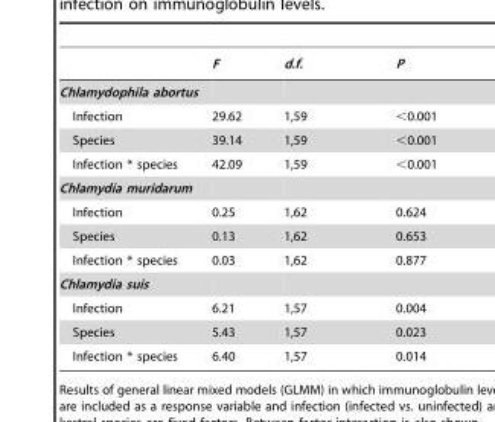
<table><thead><tr><td></td><td>F</td><td>d.f.</td><td>P</td></tr></thead><tbody><tr><td colspan="4">Chlamydophila abortus</td></tr><tr><td>Infection</td><td>29.62</td><td>1,59</td><td>&lt;0.001</td></tr><tr><td>Species</td><td>39.14</td><td>1,59</td><td>&lt;0.001</td></tr><tr><td>Infection * species</td><td>42.09</td><td>1,59</td><td>&lt;0.001</td></tr><tr><td colspan="4">Chlamydia muridarum</td></tr><tr><td>Infection</td><td>0.25</td><td>1,62</td><td>0.624</td></tr><tr><td>Species</td><td>0.13</td><td>1,62</td><td>0.653</td></tr><tr><td>Infection * species</td><td>0.03</td><td>1,62</td><td>0.877</td></tr><tr><td colspan="4">Chlamydia suis</td></tr><tr><td>Infection</td><td>6.21</td><td>1,57</td><td>0.004</td></tr><tr><td>Species</td><td>5.43</td><td>1,57</td><td>0.023</td></tr><tr><td>Infection * species</td><td>6.40</td><td>1,57</td><td>0.014</td></tr></tbody></table>